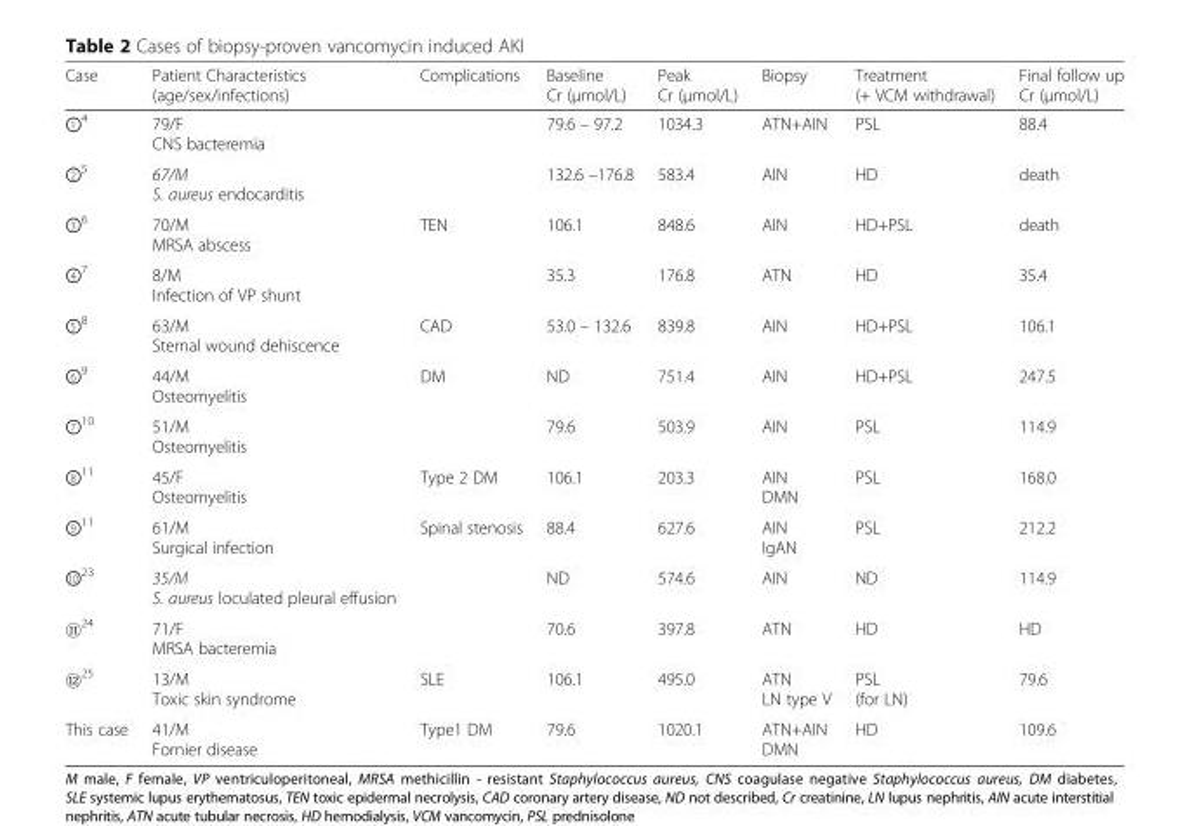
<table><thead><tr><td>Case</td><td>Patient Characteristics (age/sex/infections)</td><td>Complications</td><td>Baseline Cr (μmol/L)</td><td>Peak Cr (μmol/L)</td><td>Biopsy</td><td>Treatment (+ VCM withdrawal)</td><td>Final follow up Cr (μmol/L)</td></tr></thead><tbody><tr><td>①<sup>4</sup></td><td>79/F CNS bacteremia</td><td></td><td>79.6 – 97.2</td><td>1034.3</td><td>ATN+AIN</td><td>PSL</td><td>88.4</td></tr><tr><td>②<sup>5</sup></td><td>67/M S. aureus endocarditis</td><td></td><td>132.6 –176.8</td><td>583.4</td><td>AIN</td><td>HD</td><td>death</td></tr><tr><td>③<sup>6</sup></td><td>70/M MRSA abscess</td><td>TEN</td><td>106.1</td><td>848.6</td><td>AIN</td><td>HD+PSL</td><td>death</td></tr><tr><td>④<sup>7</sup></td><td>8/M Infection of VP shunt</td><td></td><td>35.3</td><td>176.8</td><td>ATN</td><td>HD</td><td>35.4</td></tr><tr><td>⑤<sup>8</sup></td><td>63/M Sternal wound dehiscence</td><td>CAD</td><td>53.0 – 132.6</td><td>839.8</td><td>AIN</td><td>HD+PSL</td><td>106.1</td></tr><tr><td>⑥<sup>9</sup></td><td>44/M Osteomyelitis</td><td>DM</td><td>ND</td><td>751.4</td><td>AIN</td><td>HD+PSL</td><td>247.5</td></tr><tr><td>⑦<sup>10</sup></td><td>51/M Osteomyelitis</td><td></td><td>79.6</td><td>503.9</td><td>AIN</td><td>PSL</td><td>114.9</td></tr><tr><td>⑧<sup>11</sup></td><td>45/F Osteomyelitis</td><td>Type 2 DM</td><td>106.1</td><td>203.3</td><td>AIN DMN</td><td>PSL</td><td>168.0</td></tr><tr><td>⑨<sup>11</sup></td><td>61/M Surgical infection</td><td>Spinal stenosis</td><td>88.4</td><td>627.6</td><td>AIN IgAN</td><td>PSL</td><td>212.2</td></tr><tr><td>⑩<sup>23</sup></td><td>35/M S. aureus loculated pleural effusion</td><td></td><td>ND</td><td>574.6</td><td>AIN</td><td>ND</td><td>114.9</td></tr><tr><td>⑪<sup>24</sup></td><td>71/F MRSA bacteremia</td><td></td><td>70.6</td><td>397.8</td><td>ATN</td><td>HD</td><td>HD</td></tr><tr><td>⑫<sup>25</sup></td><td>13/M Toxic skin syndrome</td><td>SLE</td><td>106.1</td><td>495.0</td><td>ATN LN type V</td><td>PSL (for LN)</td><td>79.6</td></tr><tr><td>This case</td><td>41/M Fornier disease</td><td>Type1 DM</td><td>79.6</td><td>1020.1</td><td>ATN+AIN DMN</td><td>HD</td><td>109.6</td></tr></tbody></table>